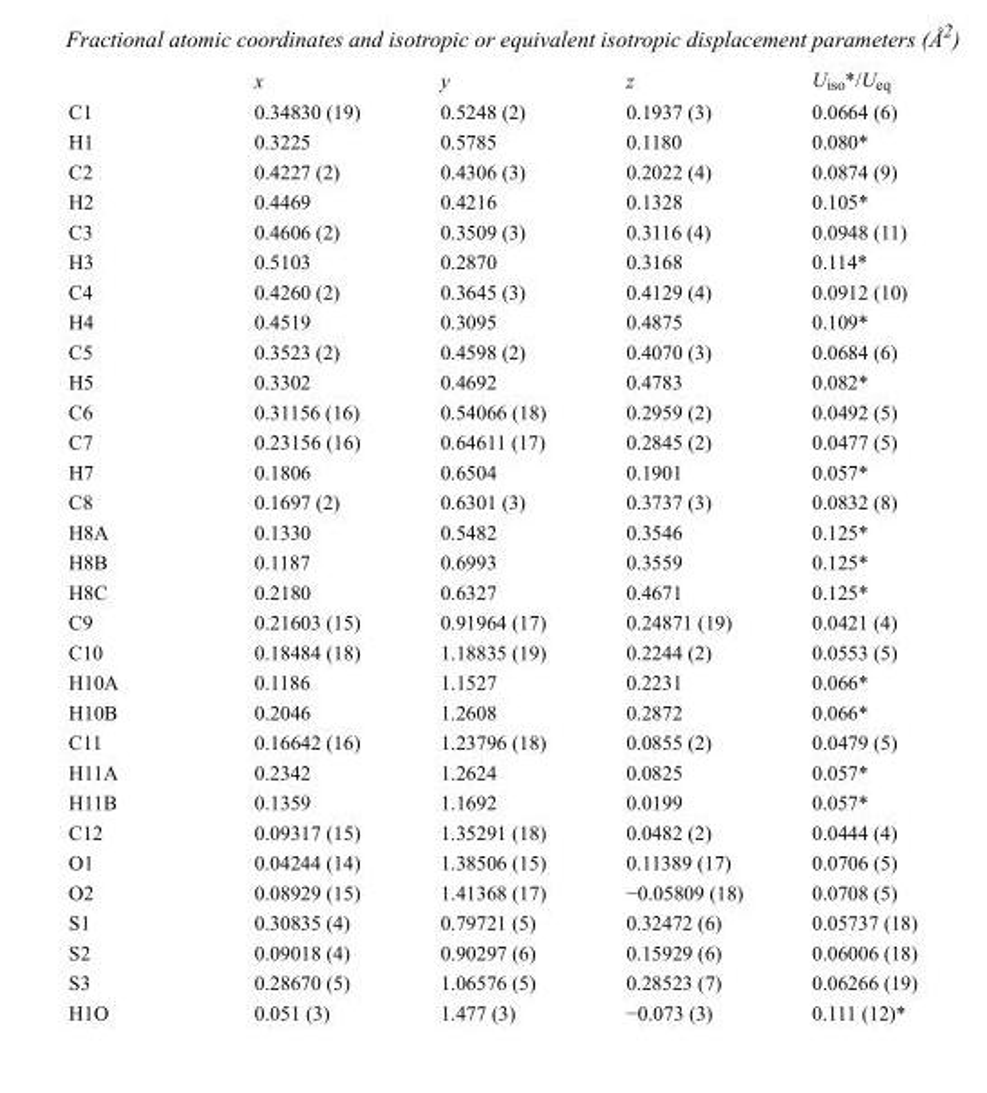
<table><thead><tr><td></td><td>x</td><td>y</td><td>z</td><td>U<sub>iso</sub>*/U<sub>eq</sub></td></tr></thead><tbody><tr><td>C1</td><td>0.34830 (19)</td><td>0.5248 (2)</td><td>0.1937 (3)</td><td>0.0664 (6)</td></tr><tr><td>H1</td><td>0.3225</td><td>0.5785</td><td>0.1180</td><td>0.080*</td></tr><tr><td>C2</td><td>0.4227 (2)</td><td>0.4306 (3)</td><td>0.2022 (4)</td><td>0.0874 (9)</td></tr><tr><td>H2</td><td>0.4469</td><td>0.4216</td><td>0.1328</td><td>0.105*</td></tr><tr><td>C3</td><td>0.4606 (2)</td><td>0.3509 (3)</td><td>0.3116 (4)</td><td>0.0948 (11)</td></tr><tr><td>H3</td><td>0.5103</td><td>0.2870</td><td>0.3168</td><td>0.114*</td></tr><tr><td>C4</td><td>0.4260 (2)</td><td>0.3645 (3)</td><td>0.4129 (4)</td><td>0.0912 (10)</td></tr><tr><td>H4</td><td>0.4519</td><td>0.3095</td><td>0.4875</td><td>0.109*</td></tr><tr><td>C5</td><td>0.3523 (2)</td><td>0.4598 (2)</td><td>0.4070 (3)</td><td>0.0684 (6)</td></tr><tr><td>H5</td><td>0.3302</td><td>0.4692</td><td>0.4783</td><td>0.082*</td></tr><tr><td>C6</td><td>0.31156 (16)</td><td>0.54066 (18)</td><td>0.2959 (2)</td><td>0.0492 (5)</td></tr><tr><td>C7</td><td>0.23156 (16)</td><td>0.64611 (17)</td><td>0.2845 (2)</td><td>0.0477 (5)</td></tr><tr><td>H7</td><td>0.1806</td><td>0.6504</td><td>0.1901</td><td>0.057*</td></tr><tr><td>C8</td><td>0.1697 (2)</td><td>0.6301 (3)</td><td>0.3737 (3)</td><td>0.0832 (8)</td></tr><tr><td>H8A</td><td>0.1330</td><td>0.5482</td><td>0.3546</td><td>0.125*</td></tr><tr><td>H8B</td><td>0.1187</td><td>0.6993</td><td>0.3559</td><td>0.125*</td></tr><tr><td>H8C</td><td>0.2180</td><td>0.6327</td><td>0.4671</td><td>0.125*</td></tr><tr><td>C9</td><td>0.21603 (15)</td><td>0.91964 (17)</td><td>0.24871 (19)</td><td>0.0421 (4)</td></tr><tr><td>C10</td><td>0.18484 (18)</td><td>1.18835 (19)</td><td>0.2244 (2)</td><td>0.0553 (5)</td></tr><tr><td>H10A</td><td>0.1186</td><td>1.1527</td><td>0.2231</td><td>0.066*</td></tr><tr><td>H10B</td><td>0.2046</td><td>1.2608</td><td>0.2872</td><td>0.066*</td></tr><tr><td>C11</td><td>0.16642 (16)</td><td>1.23796 (18)</td><td>0.0855 (2)</td><td>0.0479 (5)</td></tr><tr><td>H11A</td><td>0.2342</td><td>1.2624</td><td>0.0825</td><td>0.057*</td></tr><tr><td>H11B</td><td>0.1359</td><td>1.1692</td><td>0.0199</td><td>0.057*</td></tr><tr><td>C12</td><td>0.09317 (15)</td><td>1.35291 (18)</td><td>0.0482 (2)</td><td>0.0444 (4)</td></tr><tr><td>O1</td><td>0.04244 (14)</td><td>1.38506 (15)</td><td>0.11389 (17)</td><td>0.0706 (5)</td></tr><tr><td>O2</td><td>0.08929 (15)</td><td>1.41368 (17)</td><td>−0.05809 (18)</td><td>0.0708 (5)</td></tr><tr><td>S1</td><td>0.30835 (4)</td><td>0.79721 (5)</td><td>0.32472 (6)</td><td>0.05737 (18)</td></tr><tr><td>S2</td><td>0.09018 (4)</td><td>0.90297 (6)</td><td>0.15929 (6)</td><td>0.06006 (18)</td></tr><tr><td>S3</td><td>0.28670 (5)</td><td>1.06576 (5)</td><td>0.28523 (7)</td><td>0.06266 (19)</td></tr><tr><td>H1O</td><td>0.051 (3)</td><td>1.477 (3)</td><td>−0.073 (3)</td><td>0.111 (12)*</td></tr></tbody></table>